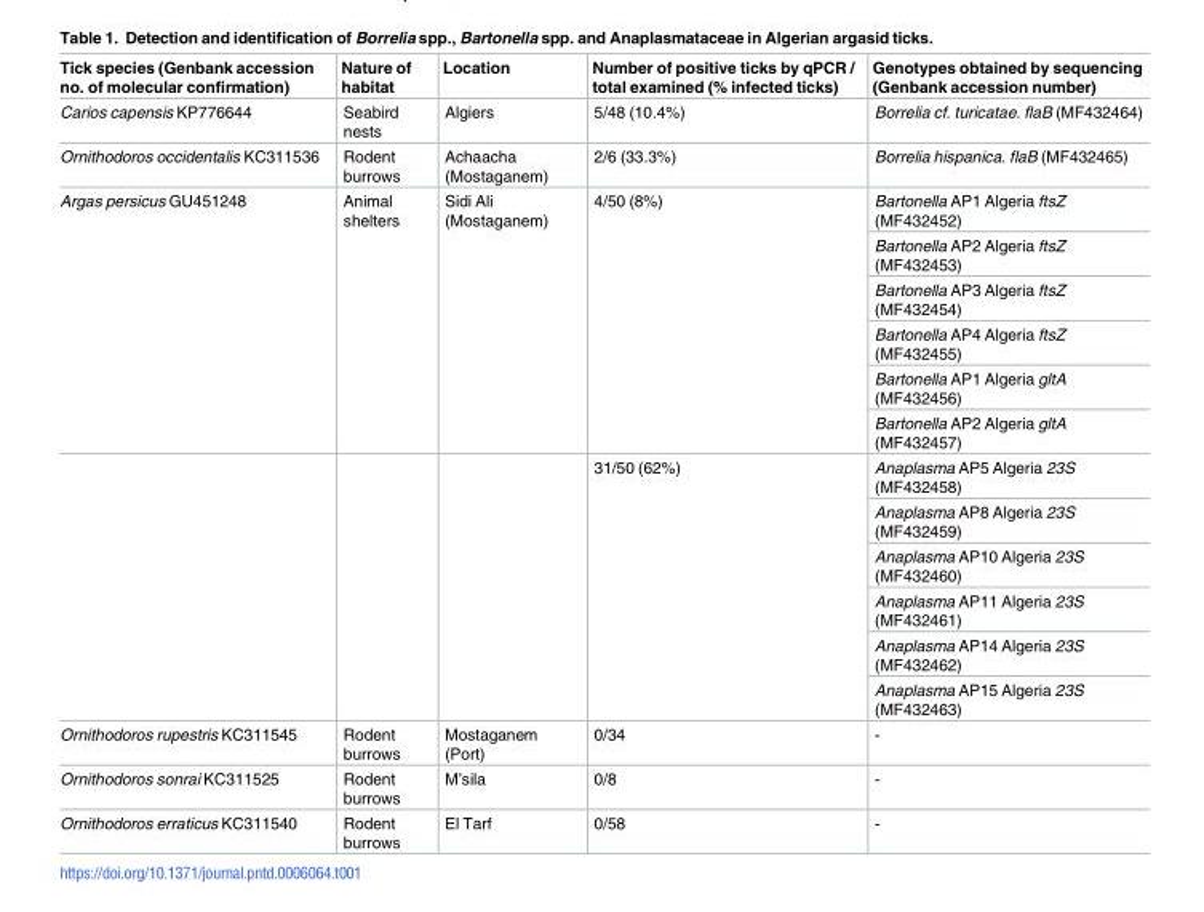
<table><thead><tr><td>Tick species (Genbank accession no. of molecular confirmation)</td><td>Nature of habitat</td><td>Location</td><td>Number of positive ticks by qPCR / total examined (% infected ticks)</td><td>Genotypes obtained by sequencing (Genbank accession number)</td></tr></thead><tbody><tr><td>Carios capensis KP776644</td><td>Seabird nests</td><td>Algiers</td><td>5/48 (10.4%)</td><td>Borrelia cf. turicatae. flaB (MF432464)</td></tr><tr><td>Ornithodoros occidentalis KC311536</td><td>Rodent burrows</td><td>Achaacha (Mostaganem)</td><td>2/6 (33.3%)</td><td>Borrelia hispanica. flaB (MF432465)</td></tr><tr><td rowspan="12">Argas persicus GU451248</td><td rowspan="6">Animal shelters</td><td rowspan="6">Sidi Ali (Mostaganem)</td><td rowspan="6">4/50 (8%)</td><td>Bartonella AP1 Algeria ftsZ (MF432452)</td></tr><tr><td>Bartonella AP2 Algeria ftsZ (MF432453)</td></tr><tr><td>Bartonella AP3 Algeria ftsZ (MF432454)</td></tr><tr><td>Bartonella AP4 Algeria ftsZ (MF432455)</td></tr><tr><td>Bartonella AP1 Algeria gltA (MF432456)</td></tr><tr><td>Bartonella AP2 Algeria gltA (MF432457)</td></tr><tr><td rowspan="6"></td><td rowspan="6"></td><td rowspan="6">31/50 (62%)</td><td>Anaplasma AP5 Algeria 23S (MF432458)</td></tr><tr><td>Anaplasma AP8 Algeria 23S (MF432459)</td></tr><tr><td>Anaplasma AP10 Algeria 23S (MF432460)</td></tr><tr><td>Anaplasma AP11 Algeria 23S (MF432461)</td></tr><tr><td>Anaplasma AP14 Algeria 23S (MF432462)</td></tr><tr><td>Anaplasma AP15 Algeria 23S (MF432463)</td></tr><tr><td>Ornithodoros rupestris KC311545</td><td>Rodent burrows</td><td>Mostaganem (Port)</td><td>0/34</td><td>-</td></tr><tr><td>Ornithodoros sonrai KC311525</td><td>Rodent burrows</td><td>M’sila</td><td>0/8</td><td>-</td></tr><tr><td>Ornithodoros erraticus KC311540</td><td>Rodent burrows</td><td>El Tarf</td><td>0/58</td><td>-</td></tr></tbody></table>